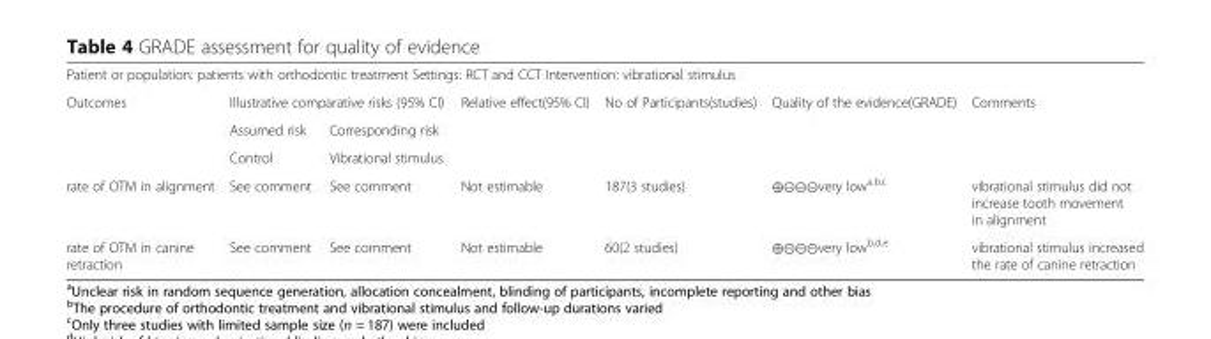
<table><tbody><tr><td colspan="7">Patient or population: patients with orthodontic treatment Settings: RCT and CCT Intervention: vibrational stimulus</td></tr><tr><td rowspan="3">Outcomes</td><td colspan="2">Illustrative comparative risks (95% CI)</td><td rowspan="2">Relative effect(95% CI)</td><td rowspan="2">No of Participants(studies)</td><td rowspan="2">Quality of the evidence(GRADE)</td><td rowspan="2">Comments</td></tr><tr><td>Assumed risk</td><td>Corresponding risk</td></tr><tr><td>Control</td><td>Vibrational stimulus</td><td></td><td></td><td></td><td></td></tr><tr><td>rate of OTM in alignment</td><td>See comment</td><td>See comment</td><td>Not estimable</td><td>187(3 studies)</td><td>⊕⊝⊝⊝very low<sup>a,b,c</sup></td><td>vibrational stimulus did not increase tooth movement in alignment</td></tr><tr><td>rate of OTM in canine retraction</td><td>See comment</td><td>See comment</td><td>Not estimable</td><td>60(2 studies)</td><td>⊕⊝⊝⊝very low<sup>b,d,e</sup></td><td>vibrational stimulus increased the rate of canine retraction</td></tr></tbody></table>